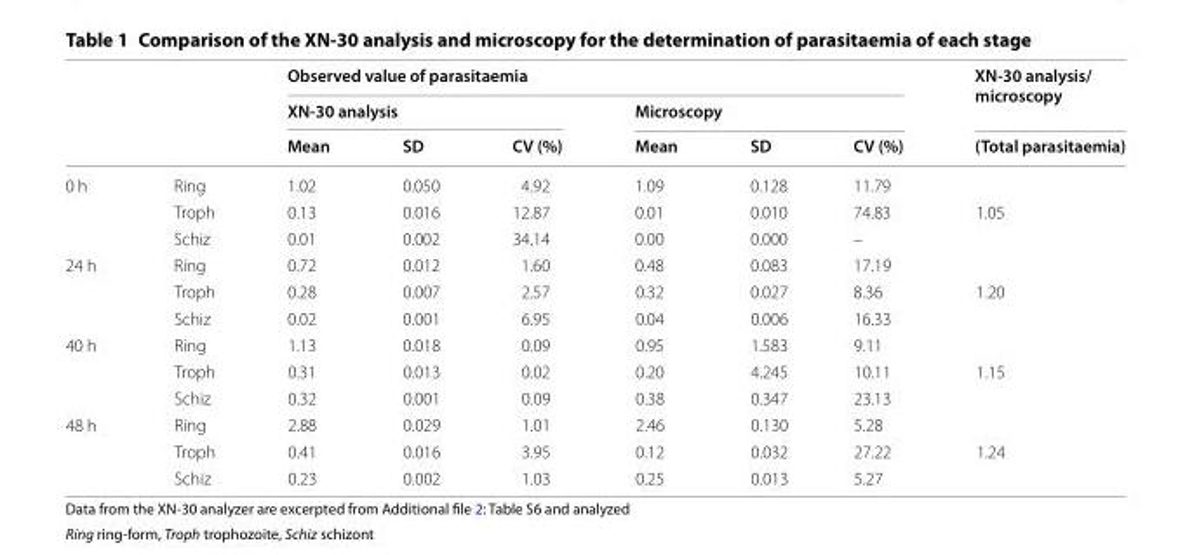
<table><thead><tr><td rowspan="3"></td><td rowspan="3"></td><td colspan="6">Observed value of parasitaemia</td><td rowspan="3">XN‑30 analysis/ microscopy (Total parasitaemia)</td></tr><tr><td colspan="3">XN‑30 analysis</td><td colspan="3">Microscopy</td></tr><tr><td>Mean</td><td>SD</td><td>CV (%)</td><td>Mean</td><td>SD</td><td>CV (%)</td></tr></thead><tbody><tr><td rowspan="3">0 h</td><td>Ring</td><td>1.02</td><td>0.050</td><td>4.92</td><td>1.09</td><td>0.128</td><td>11.79</td><td></td></tr><tr><td>Troph</td><td>0.13</td><td>0.016</td><td>12.87</td><td>0.01</td><td>0.010</td><td>74.83</td><td>1.05</td></tr><tr><td>Schiz</td><td>0.01</td><td>0.002</td><td>34.14</td><td>0.00</td><td>0.000</td><td>–</td><td></td></tr><tr><td rowspan="3">24 h</td><td>Ring</td><td>0.72</td><td>0.012</td><td>1.60</td><td>0.48</td><td>0.083</td><td>17.19</td><td></td></tr><tr><td>Troph</td><td>0.28</td><td>0.007</td><td>2.57</td><td>0.32</td><td>0.027</td><td>8.36</td><td>1.20</td></tr><tr><td>Schiz</td><td>0.02</td><td>0.001</td><td>6.95</td><td>0.04</td><td>0.006</td><td>16.33</td><td></td></tr><tr><td rowspan="3">40 h</td><td>Ring</td><td>1.13</td><td>0.018</td><td>0.09</td><td>0.95</td><td>1.583</td><td>9.11</td><td></td></tr><tr><td>Troph</td><td>0.31</td><td>0.013</td><td>0.02</td><td>0.20</td><td>4.245</td><td>10.11</td><td>1.15</td></tr><tr><td>Schiz</td><td>0.32</td><td>0.001</td><td>0.09</td><td>0.38</td><td>0.347</td><td>23.13</td><td></td></tr><tr><td rowspan="3">48 h</td><td>Ring</td><td>2.88</td><td>0.029</td><td>1.01</td><td>2.46</td><td>0.130</td><td>5.28</td><td></td></tr><tr><td>Troph</td><td>0.41</td><td>0.016</td><td>3.95</td><td>0.12</td><td>0.032</td><td>27.22</td><td>1.24</td></tr><tr><td>Schiz</td><td>0.23</td><td>0.002</td><td>1.03</td><td>0.25</td><td>0.013</td><td>5.27</td><td></td></tr></tbody></table>